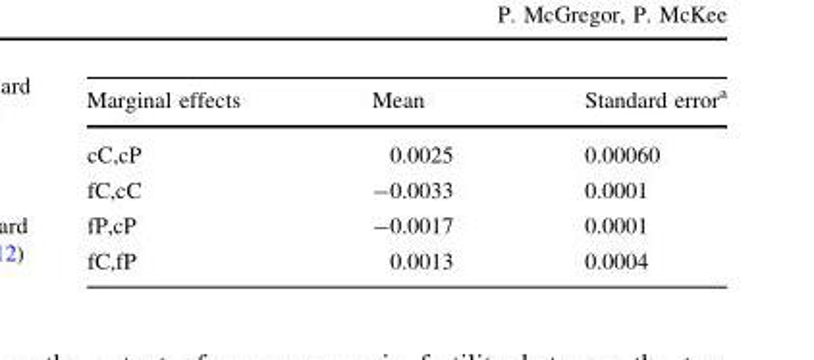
<table><thead><tr><td>Marginal effects</td><td>Mean</td><td>Standard error<sup>a</sup></td></tr></thead><tbody><tr><td>cC,cP</td><td>0.0025</td><td>0.00060</td></tr><tr><td>fC,cC</td><td>-0.0033</td><td>0.0001</td></tr><tr><td>fP,cP</td><td>-0.0017</td><td>0.0001</td></tr><tr><td>fC,fP</td><td>0.0013</td><td>0.0004</td></tr></tbody></table>